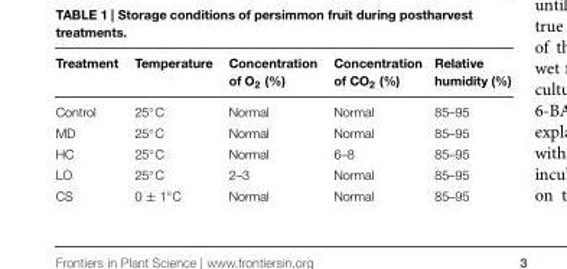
<table><thead><tr><td>Treatment</td><td>Temperature</td><td>Concentration of O<sub>2</sub> (%)</td><td>Concentration of CO<sub>2</sub> (%)</td><td>Relative humidity (%)</td></tr></thead><tbody><tr><td>Control</td><td>25◦C</td><td>Normal</td><td>Normal</td><td>85–95</td></tr><tr><td>MD</td><td>25◦C</td><td>Normal</td><td>Normal</td><td>85–95</td></tr><tr><td>HC</td><td>25◦C</td><td>Normal</td><td>6–8</td><td>85–95</td></tr><tr><td>LO</td><td>25◦C</td><td>2–3</td><td>Normal</td><td>85–95</td></tr><tr><td>CS</td><td>0 ± 1◦C</td><td>Normal</td><td>Normal</td><td>85–95</td></tr></tbody></table>